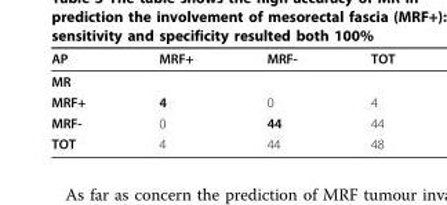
<table><thead><tr><td>AP</td><td>MRF+</td><td>MRF-</td><td>TOT</td></tr></thead><tbody><tr><td colspan="4">MR</td></tr><tr><td>MRF+</td><td>4</td><td>0</td><td>4</td></tr><tr><td>MRF-</td><td>0</td><td>44</td><td>44</td></tr><tr><td>TOT</td><td>4</td><td>44</td><td>48</td></tr></tbody></table>